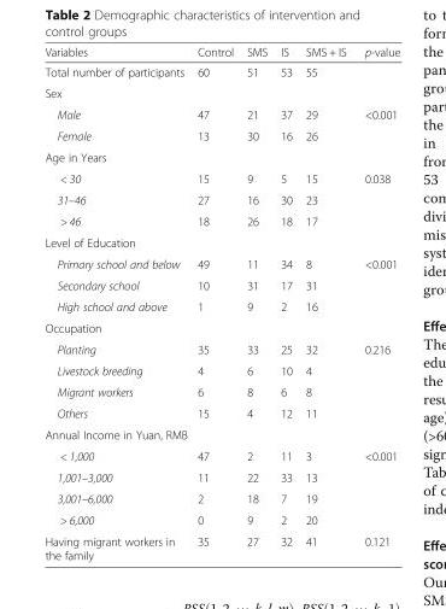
<table><thead><tr><td>Variables</td><td>Control</td><td>SMS</td><td>IS</td><td>SMS + IS</td><td>p-value</td></tr></thead><tbody><tr><td>Total number of participants</td><td>60</td><td>51</td><td>53</td><td>55</td><td></td></tr><tr><td colspan="6">Sex</td></tr><tr><td>Male</td><td>47</td><td>21</td><td>37</td><td>29</td><td rowspan="2">&lt;0.001</td></tr><tr><td>Female</td><td>13</td><td>30</td><td>16</td><td>26</td></tr><tr><td colspan="6">Age in Years</td></tr><tr><td>&lt; 30</td><td>15</td><td>9</td><td>5</td><td>15</td><td rowspan="3">0.038</td></tr><tr><td>31–46</td><td>27</td><td>16</td><td>30</td><td>23</td></tr><tr><td>&gt; 46</td><td>18</td><td>26</td><td>18</td><td>17</td></tr><tr><td colspan="6">Level of Education</td></tr><tr><td>Primary school and below</td><td>49</td><td>11</td><td>34</td><td>8</td><td rowspan="3">&lt;0.001</td></tr><tr><td>Secondary school</td><td>10</td><td>31</td><td>17</td><td>31</td></tr><tr><td>High school and above</td><td>1</td><td>9</td><td>2</td><td>16</td></tr><tr><td colspan="6">Occupation</td></tr><tr><td>Planting</td><td>35</td><td>33</td><td>25</td><td>32</td><td rowspan="4">0.216</td></tr><tr><td>Livestock breeding</td><td>4</td><td>6</td><td>10</td><td>4</td></tr><tr><td>Migrant workers</td><td>6</td><td>8</td><td>6</td><td>8</td></tr><tr><td>Others</td><td>15</td><td>4</td><td>12</td><td>11</td></tr><tr><td colspan="6">Annual Income in Yuan, RMB</td></tr><tr><td>&lt; 1,000</td><td>47</td><td>2</td><td>11</td><td>3</td><td rowspan="4">&lt;0.001</td></tr><tr><td>1,001–3,000</td><td>11</td><td>22</td><td>33</td><td>13</td></tr><tr><td>3,001–6,000</td><td>2</td><td>18</td><td>7</td><td>19</td></tr><tr><td>&gt; 6,000</td><td>0</td><td>9</td><td>2</td><td>20</td></tr><tr><td>Having migrant workers in the family</td><td>35</td><td>27</td><td>32</td><td>41</td><td>0.121</td></tr></tbody></table>